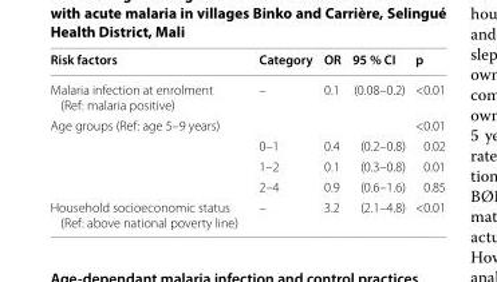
<table><thead><tr><td>Risk factors</td><td>Category</td><td>OR</td><td>95 % CI</td><td>p</td></tr></thead><tbody><tr><td>Malaria infection at enrolment (Ref: malaria positive)</td><td>–</td><td>0.1</td><td>(0.08–0.2)</td><td>&lt;0.01</td></tr><tr><td rowspan="4">Age groups (Ref: age 5–9 years)</td><td colspan="3"></td><td>&lt;0.01</td></tr><tr><td>0–1</td><td>0.4</td><td>(0.2–0.8)</td><td>0.02</td></tr><tr><td>1–2</td><td>0.1</td><td>(0.3–0.8)</td><td>0.01</td></tr><tr><td>2–4</td><td>0.9</td><td>(0.6–1.6)</td><td>0.85</td></tr><tr><td>Household socioeconomic status (Ref: above national poverty line)</td><td>–</td><td>3.2</td><td>(2.1–4.8)</td><td>&lt;0.01</td></tr></tbody></table>